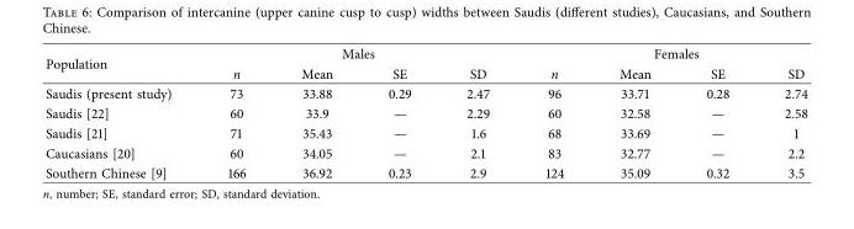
<table><thead><tr><td rowspan="2">Population</td><td colspan="4">Males</td><td colspan="4">Females</td></tr><tr><td>n</td><td>Mean</td><td>SE</td><td>SD</td><td>n</td><td>Mean</td><td>SE</td><td>SD</td></tr></thead><tbody><tr><td>Saudis (present study)</td><td>73</td><td>33.88</td><td>0.29</td><td>2.47</td><td>96</td><td>33.71</td><td>0.28</td><td>2.74</td></tr><tr><td>Saudis [22]</td><td>60</td><td>33.9</td><td>—</td><td>2.29</td><td>60</td><td>32.58</td><td>—</td><td>2.58</td></tr><tr><td>Saudis [21]</td><td>71</td><td>35.43</td><td>—</td><td>1.6</td><td>68</td><td>33.69</td><td>—</td><td>1</td></tr><tr><td>Caucasians [20]</td><td>60</td><td>34.05</td><td>—</td><td>2.1</td><td>83</td><td>32.77</td><td>—</td><td>2.2</td></tr><tr><td>Southern Chinese [9]</td><td>166</td><td>36.92</td><td>0.23</td><td>2.9</td><td>124</td><td>35.09</td><td>0.32</td><td>3.5</td></tr></tbody></table>